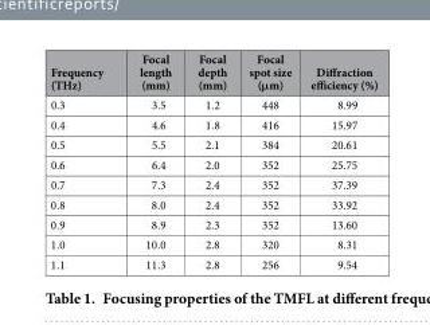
<table><thead><tr><td>Frequency (THz)</td><td>Focal length (mm)</td><td>Focal depth (mm)</td><td>Focal spot size (μm)</td><td>Diffraction efficiency (%)</td></tr></thead><tbody><tr><td>0.3</td><td>3.5</td><td>1.2</td><td>448</td><td>8.99</td></tr><tr><td>0.4</td><td>4.6</td><td>1.8</td><td>416</td><td>15.97</td></tr><tr><td>0.5</td><td>5.5</td><td>2.1</td><td>384</td><td>20.61</td></tr><tr><td>0.6</td><td>6.4</td><td>2.0</td><td>352</td><td>25.75</td></tr><tr><td>0.7</td><td>7.3</td><td>2.4</td><td>352</td><td>37.39</td></tr><tr><td>0.8</td><td>8.0</td><td>2.4</td><td>352</td><td>33.92</td></tr><tr><td>0.9</td><td>8.9</td><td>2.3</td><td>352</td><td>13.60</td></tr><tr><td>1.0</td><td>10.0</td><td>2.8</td><td>320</td><td>8.31</td></tr><tr><td>1.1</td><td>11.3</td><td>2.8</td><td>256</td><td>9.54</td></tr></tbody></table>